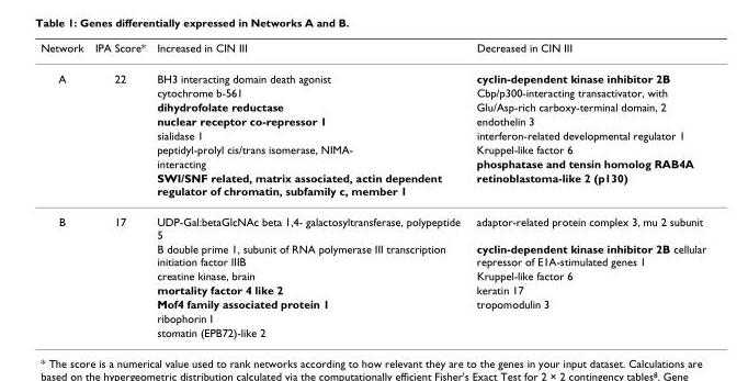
<table><thead><tr><td>Network</td><td>IPA Score*</td><td>Increased in CIN III</td><td>Decreased in CIN III</td></tr></thead><tbody><tr><td rowspan="8">A</td><td>22</td><td>BH3 interacting domain death agonist</td><td>cyclin-dependent kinase inhibitor 2B</td></tr><tr><td></td><td>cytochrome b-561</td><td>Cbp/p300-interacting transactivator, with</td></tr><tr><td></td><td>dihydrofolate reductase</td><td>Glu/Asp-rich carboxy-terminal domain, 2</td></tr><tr><td></td><td>nuclear receptor co-repressor 1</td><td>endothelin 3</td></tr><tr><td></td><td>sialidase 1</td><td>interferon-related developmental regulator 1</td></tr><tr><td></td><td>peptidyl-prolyl cis/trans isomerase, NIMA-</td><td>Kruppel-like factor 6</td></tr><tr><td></td><td>interacting</td><td>phosphatase and tensin homolog RAB4A</td></tr><tr><td></td><td>SWI/SNF related, matrix associated, actin dependent regulator of chromatin, subfamily c, member 1</td><td>retinoblastoma-like 2 (p130)</td></tr><tr><td rowspan="7">B</td><td>17</td><td>UDP-Gal:betaGlcNAc beta 1,4- galactosyltransferase, polypeptide 5</td><td>adaptor-related protein complex 3, mu 2 subunit</td></tr><tr><td></td><td>B double prime 1, subunit of RNA polymerase III transcription initiation factor IIIB</td><td>cyclin-dependent kinase inhibitor 2B cellular repressor of E1A-stimulated genes 1</td></tr><tr><td></td><td>creatine kinase, brain</td><td>Kruppel-like factor 6</td></tr><tr><td></td><td>mortality factor 4 like 2</td><td>keratin 17</td></tr><tr><td></td><td>Mof4 family associated protein 1</td><td>tropomodulin 3</td></tr><tr><td></td><td>ribophorin I</td><td></td></tr><tr><td></td><td>stomatin (EPB72)-like 2</td><td></td></tr></tbody></table>